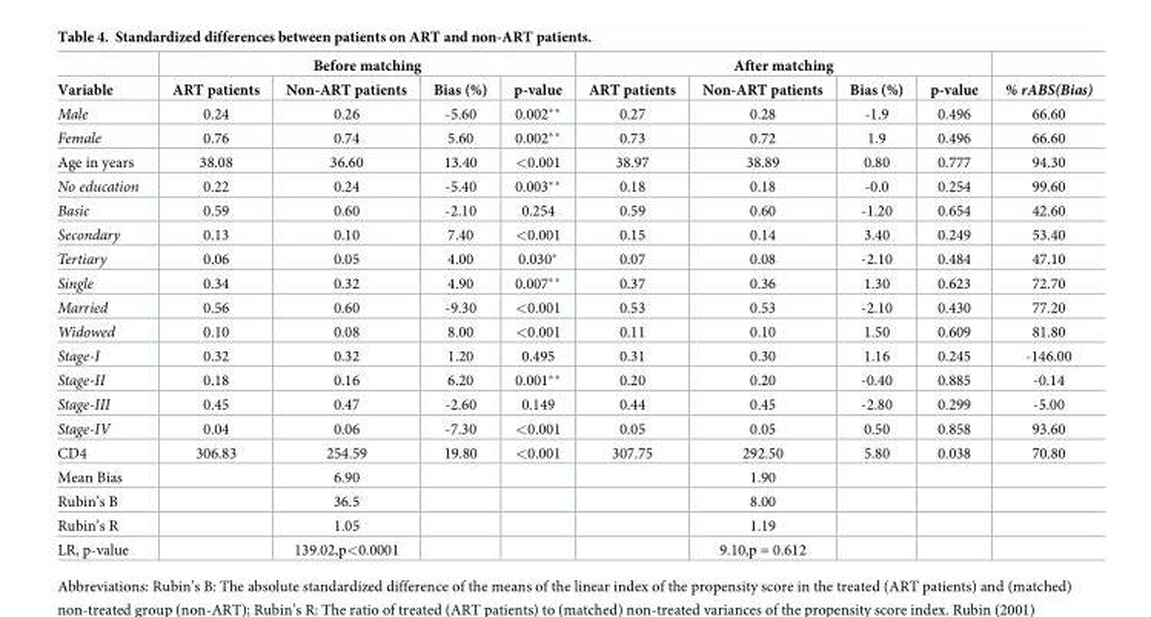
<table><thead><tr><td rowspan="2">Variable</td><td colspan="4">Before matching</td><td colspan="4">After matching</td><td rowspan="2">% rABS(Bias)</td></tr><tr><td>ART patients</td><td>Non-ART patients</td><td>Bias (%)</td><td>p-value</td><td>ART patients</td><td>Non-ART patients</td><td>Bias (%)</td><td>p-value</td></tr></thead><tbody><tr><td>Male</td><td>0.24</td><td>0.26</td><td>-5.60</td><td>0.002**</td><td>0.27</td><td>0.28</td><td>-1.9</td><td>0.496</td><td>66.60</td></tr><tr><td>Female</td><td>0.76</td><td>0.74</td><td>5.60</td><td>0.002**</td><td>0.73</td><td>0.72</td><td>1.9</td><td>0.496</td><td>66.60</td></tr><tr><td>Age in years</td><td>38.08</td><td>36.60</td><td>13.40</td><td>&lt;0.001</td><td>38.97</td><td>38.89</td><td>0.80</td><td>0.777</td><td>94.30</td></tr><tr><td>No education</td><td>0.22</td><td>0.24</td><td>-5.40</td><td>0.003**</td><td>0.18</td><td>0.18</td><td>-0.0</td><td>0.254</td><td>99.60</td></tr><tr><td>Basic</td><td>0.59</td><td>0.60</td><td>-2.10</td><td>0.254</td><td>0.59</td><td>0.60</td><td>-1.20</td><td>0.654</td><td>42.60</td></tr><tr><td>Secondary</td><td>0.13</td><td>0.10</td><td>7.40</td><td>&lt;0.001</td><td>0.15</td><td>0.14</td><td>3.40</td><td>0.249</td><td>53.40</td></tr><tr><td>Tertiary</td><td>0.06</td><td>0.05</td><td>4.00</td><td>0.030*</td><td>0.07</td><td>0.08</td><td>-2.10</td><td>0.484</td><td>47.10</td></tr><tr><td>Single</td><td>0.34</td><td>0.32</td><td>4.90</td><td>0.007**</td><td>0.37</td><td>0.36</td><td>1.30</td><td>0.623</td><td>72.70</td></tr><tr><td>Married</td><td>0.56</td><td>0.60</td><td>-9.30</td><td>&lt;0.001</td><td>0.53</td><td>0.53</td><td>-2.10</td><td>0.430</td><td>77.20</td></tr><tr><td>Widowed</td><td>0.10</td><td>0.08</td><td>8.00</td><td>&lt;0.001</td><td>0.11</td><td>0.10</td><td>1.50</td><td>0.609</td><td>81.80</td></tr><tr><td>Stage-I</td><td>0.32</td><td>0.32</td><td>1.20</td><td>0.495</td><td>0.31</td><td>0.30</td><td>1.16</td><td>0.245</td><td>-146.00</td></tr><tr><td>Stage-II</td><td>0.18</td><td>0.16</td><td>6.20</td><td>0.001**</td><td>0.20</td><td>0.20</td><td>-0.40</td><td>0.885</td><td>-0.14</td></tr><tr><td>Stage-III</td><td>0.45</td><td>0.47</td><td>-2.60</td><td>0.149</td><td>0.44</td><td>0.45</td><td>-2.80</td><td>0.299</td><td>-5.00</td></tr><tr><td>Stage-IV</td><td>0.04</td><td>0.06</td><td>-7.30</td><td>&lt;0.001</td><td>0.05</td><td>0.05</td><td>0.50</td><td>0.858</td><td>93.60</td></tr><tr><td>CD4</td><td>306.83</td><td>254.59</td><td>19.80</td><td>&lt;0.001</td><td>307.75</td><td>292.50</td><td>5.80</td><td>0.038</td><td>70.80</td></tr><tr><td>Mean Bias</td><td></td><td>6.90</td><td></td><td></td><td></td><td>1.90</td><td></td><td></td><td></td></tr><tr><td>Rubin’s B</td><td></td><td>36.5</td><td></td><td></td><td></td><td>8.00</td><td></td><td></td><td></td></tr><tr><td>Rubin’s R</td><td></td><td>1.05</td><td></td><td></td><td></td><td>1.19</td><td></td><td></td><td></td></tr><tr><td>LR, p-value</td><td></td><td>139.02,p&lt;0.0001</td><td></td><td></td><td></td><td>9.10,p = 0.612</td><td></td><td></td><td></td></tr></tbody></table>